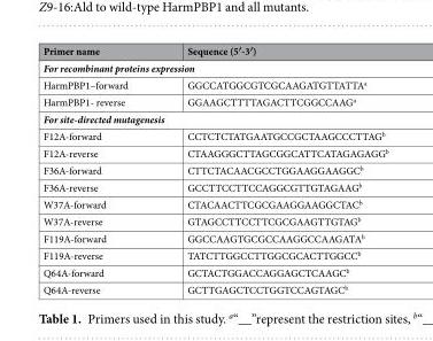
<table><thead><tr><td>Primer name</td><td>Sequence (5′-3′)</td></tr></thead><tbody><tr><td colspan="2">For recombinant proteins expression</td></tr><tr><td>HarmPBP1–forward</td><td>GGCCATGGCGTCGCAAGATGTTATTA<sup>a</sup></td></tr><tr><td>HarmPBP1- reverse</td><td>GGAAGCTTTTAGACTTCGGCCAAG<sup>a</sup></td></tr><tr><td colspan="2">For site-directed mutagenesis</td></tr><tr><td>F12A-forward</td><td>CCTCTCTATGAATGCCGCTAAGCCCTTAG<sup>b</sup></td></tr><tr><td>F12A-reverse</td><td>CTAAGGGCTTAGCGGCATTCATAGAGAGG<sup>b</sup></td></tr><tr><td>F36A-forward</td><td>CTTCTACAACGCCTGGAAGGAAGGC<sup>b</sup></td></tr><tr><td>F36A-reverse</td><td>GCCTTCCTTCCAGGCGTTGTAGAAG<sup>b</sup></td></tr><tr><td>W37A-forward</td><td>CTACAACTTCGCGAAGGAAGGCTAC<sup>b</sup></td></tr><tr><td>W37A-reverse</td><td>GTAGCCTTCCTTCGCGAAGTTGTAG<sup>b</sup></td></tr><tr><td>F119A-forward</td><td>GGCCAAGTGCGCCAAGGCCAAGATA<sup>b</sup></td></tr><tr><td>F119A-reverse</td><td>TATCTTGGCCTTGGCGCACTTGGCC<sup>b</sup></td></tr><tr><td>Q64A-forward</td><td>GCTACTGGACCAGGAGCTCAAGC<sup>b</sup></td></tr><tr><td>Q64A-reverse</td><td>GCTTGAGCTCCTGGTCCAGTAGC<sup>b</sup></td></tr></tbody></table>